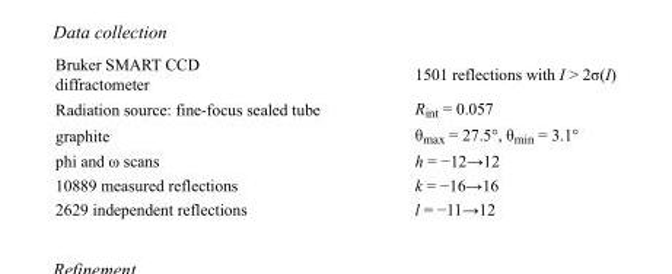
<table><tbody><tr><td>Bruker SMART CCD diffractometer</td><td>1501 reflections with I &gt; 2σ(I)</td></tr><tr><td>Radiation source: fine-focus sealed tube</td><td>R<sub>int</sub> = 0.057</td></tr><tr><td>graphite</td><td>θ<sub>max</sub> = 27.5°, θ<sub>min</sub> = 3.1°</td></tr><tr><td>phi and ω scans</td><td>h = −12→12</td></tr><tr><td>10889 measured reflections</td><td>k = −16→16</td></tr><tr><td>2629 independent reflections</td><td>l = −11→12</td></tr></tbody></table>